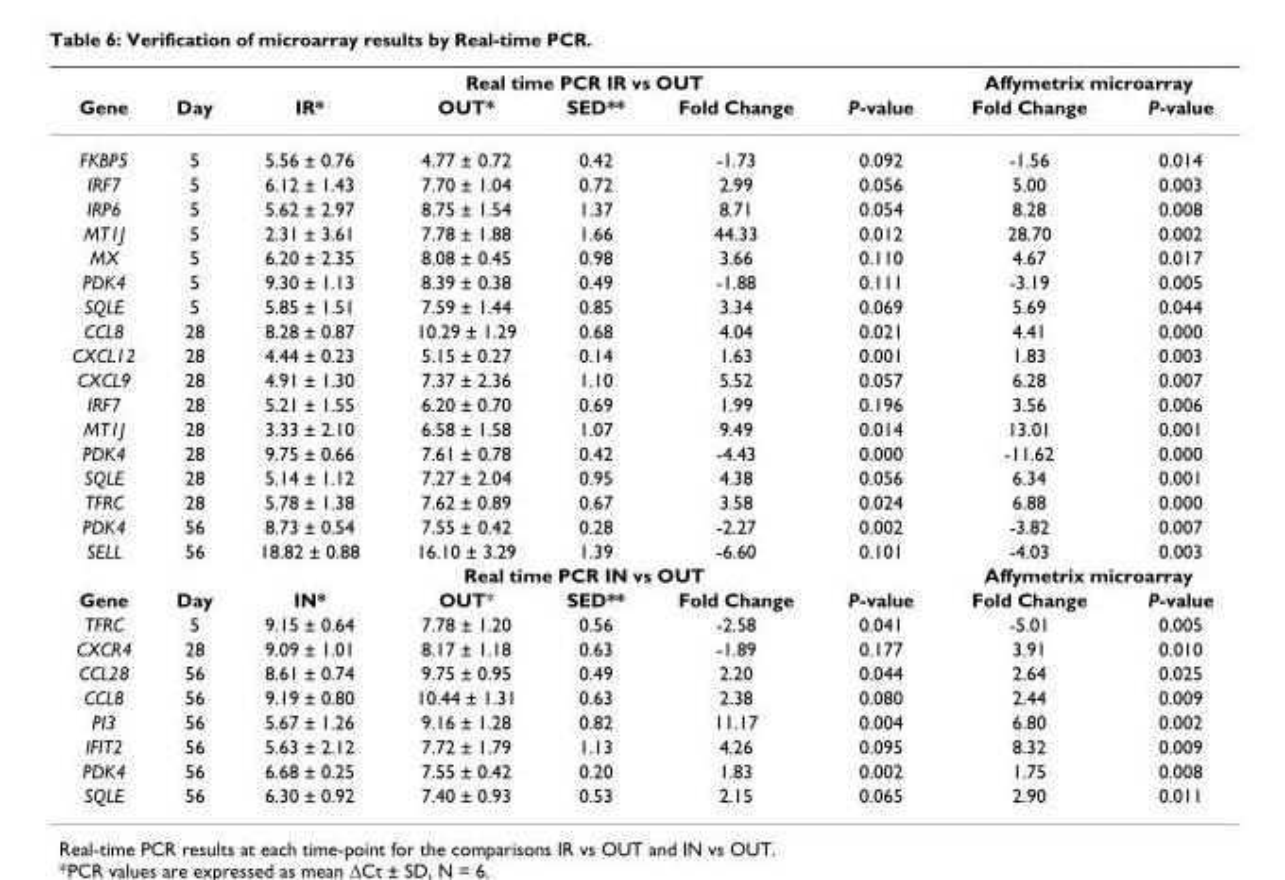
<table><thead><tr><td rowspan="2">Gene</td><td rowspan="2">Day</td><td colspan="5">Real time PCR IR vs OUT</td><td colspan="2">Affymetrix microarray</td></tr><tr><td>IR*</td><td>OUT*</td><td>SED**</td><td>Fold Change</td><td>P-value</td><td>Fold Change</td><td>P-value</td></tr></thead><tbody><tr><td>FKBP5</td><td>5</td><td>5.56 ± 0.76</td><td>4.77 ± 0.72</td><td>0.42</td><td>-1.73</td><td>0.092</td><td>-1.56</td><td>0.014</td></tr><tr><td>IRF7</td><td>5</td><td>6.12 ± 1.43</td><td>7.70 ± 1.04</td><td>0.72</td><td>2.99</td><td>0.056</td><td>5.00</td><td>0.003</td></tr><tr><td>IRP6</td><td>5</td><td>5.62 ± 2.97</td><td>8.75 ± 1.54</td><td>1.37</td><td>8.71</td><td>0.054</td><td>8.28</td><td>0.008</td></tr><tr><td>MT1J</td><td>5</td><td>2.31 ± 3.61</td><td>7.78 ± 1.88</td><td>1.66</td><td>44.33</td><td>0.012</td><td>28.70</td><td>0.002</td></tr><tr><td>MX</td><td>5</td><td>6.20 ± 2.35</td><td>8.08 ± 0.45</td><td>0.98</td><td>3.66</td><td>0.110</td><td>4.67</td><td>0.017</td></tr><tr><td>PDK4</td><td>5</td><td>9.30 ± 1.13</td><td>8.39 ± 0.38</td><td>0.49</td><td>-1.88</td><td>0.111</td><td>-3.19</td><td>0.005</td></tr><tr><td>SQLE</td><td>5</td><td>5.85 ± 1.51</td><td>7.59 ± 1.44</td><td>0.85</td><td>3.34</td><td>0.069</td><td>5.69</td><td>0.044</td></tr><tr><td>CCL8</td><td>28</td><td>8.28 ± 0.87</td><td>10.29 ± 1.29</td><td>0.68</td><td>4.04</td><td>0.021</td><td>4.41</td><td>0.000</td></tr><tr><td>CXCL12</td><td>28</td><td>4.44 ± 0.23</td><td>5.15 ± 0.27</td><td>0.14</td><td>1.63</td><td>0.001</td><td>1.83</td><td>0.003</td></tr><tr><td>CXCL9</td><td>28</td><td>4.91 ± 1.30</td><td>7.37 ± 2.36</td><td>1.10</td><td>5.52</td><td>0.057</td><td>6.28</td><td>0.007</td></tr><tr><td>IRF7</td><td>28</td><td>5.21 ± 1.55</td><td>6.20 ± 0.70</td><td>0.69</td><td>1.99</td><td>0.196</td><td>3.56</td><td>0.006</td></tr><tr><td>MT1J</td><td>28</td><td>3.33 ± 2.10</td><td>6.58 ± 1.58</td><td>1.07</td><td>9.49</td><td>0.014</td><td>13.01</td><td>0.001</td></tr><tr><td>PDK4</td><td>28</td><td>9.75 ± 0.66</td><td>7.61 ± 0.78</td><td>0.42</td><td>-4.43</td><td>0.000</td><td>-11.62</td><td>0.000</td></tr><tr><td>SQLE</td><td>28</td><td>5.14 ± 1.12</td><td>7.27 ± 2.04</td><td>0.95</td><td>4.38</td><td>0.056</td><td>6.34</td><td>0.001</td></tr><tr><td>TFRC</td><td>28</td><td>5.78 ± 1.38</td><td>7.62 ± 0.89</td><td>0.67</td><td>3.58</td><td>0.024</td><td>6.88</td><td>0.000</td></tr><tr><td>PDK4</td><td>56</td><td>8.73 ± 0.54</td><td>7.55 ± 0.42</td><td>0.28</td><td>-2.27</td><td>0.002</td><td>-3.82</td><td>0.007</td></tr><tr><td rowspan="2">SELL</td><td>56</td><td>18.82 ± 0.88</td><td>16.10 ± 3.29</td><td>1.39</td><td>-6.60</td><td>0.101</td><td>-4.03</td><td>0.003</td></tr><tr><td></td><td colspan="5">Real time PCR IN vs OUT</td><td colspan="2">Affymetrix microarray</td></tr><tr><td>Gene</td><td>Day</td><td>IN*</td><td>OUT*</td><td>SED**</td><td>Fold Change</td><td>P-value</td><td>Fold Change</td><td>P-value</td></tr><tr><td>TFRC</td><td>5</td><td>9.15 ± 0.64</td><td>7.78 ± 1.20</td><td>0.56</td><td>-2.58</td><td>0.041</td><td>-5.01</td><td>0.005</td></tr><tr><td>CXCR4</td><td>28</td><td>9.09 ± 1.01</td><td>8.17 ± 1.18</td><td>0.63</td><td>-1.89</td><td>0.177</td><td>3.91</td><td>0.010</td></tr><tr><td>CCL28</td><td>56</td><td>8.61 ± 0.74</td><td>9.75 ± 0.95</td><td>0.49</td><td>2.20</td><td>0.044</td><td>2.64</td><td>0.025</td></tr><tr><td>CCL8</td><td>56</td><td>9.19 ± 0.80</td><td>10.44 ± 1.31</td><td>0.63</td><td>2.38</td><td>0.080</td><td>2.44</td><td>0.009</td></tr><tr><td>PI3</td><td>56</td><td>5.67 ± 1.26</td><td>9.16 ± 1.28</td><td>0.82</td><td>11.17</td><td>0.004</td><td>6.80</td><td>0.002</td></tr><tr><td>IFIT2</td><td>56</td><td>5.63 ± 2.12</td><td>7.72 ± 1.79</td><td>1.13</td><td>4.26</td><td>0.095</td><td>8.32</td><td>0.009</td></tr><tr><td>PDK4</td><td>56</td><td>6.68 ± 0.25</td><td>7.55 ± 0.42</td><td>0.20</td><td>1.83</td><td>0.002</td><td>1.75</td><td>0.008</td></tr><tr><td>SQLE</td><td>56</td><td>6.30 ± 0.92</td><td>7.40 ± 0.93</td><td>0.53</td><td>2.15</td><td>0.065</td><td>2.90</td><td>0.011</td></tr></tbody></table>